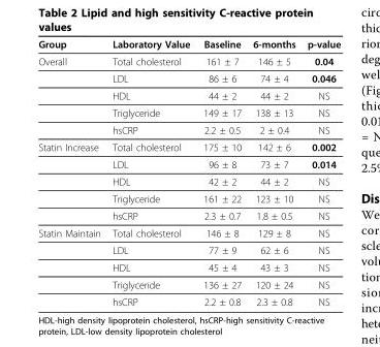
<table><thead><tr><td>Group</td><td>Laboratory Value</td><td>Baseline</td><td>6-months</td><td>p-value</td></tr></thead><tbody><tr><td rowspan="5">Overall</td><td>Total cholesterol</td><td>161 ± 7</td><td>146 ± 5</td><td>0.04</td></tr><tr><td>LDL</td><td>86 ± 6</td><td>74 ± 4</td><td>0.046</td></tr><tr><td>HDL</td><td>44 ± 2</td><td>44 ± 2</td><td>NS</td></tr><tr><td>Triglyceride</td><td>149 ± 17</td><td>138 ± 13</td><td>NS</td></tr><tr><td>hsCRP</td><td>2.2 ± 0.5</td><td>2 ± 0.4</td><td>NS</td></tr><tr><td rowspan="5">Statin Increase</td><td>Total cholesterol</td><td>175 ± 10</td><td>142 ± 6</td><td>0.002</td></tr><tr><td>LDL</td><td>96 ± 8</td><td>73 ± 7</td><td>0.014</td></tr><tr><td>HDL</td><td>42 ± 2</td><td>44 ± 2</td><td>NS</td></tr><tr><td>Triglyceride</td><td>161 ± 22</td><td>123 ± 10</td><td>NS</td></tr><tr><td>hsCRP</td><td>2.3 ± 0.7</td><td>1.8 ± 0.5</td><td>NS</td></tr><tr><td rowspan="5">Statin Maintain</td><td>Total cholesterol</td><td>146 ± 8</td><td>129 ± 8</td><td>NS</td></tr><tr><td>LDL</td><td>77 ± 9</td><td>62 ± 6</td><td>NS</td></tr><tr><td>HDL</td><td>45 ± 4</td><td>43 ± 3</td><td>NS</td></tr><tr><td>Triglyceride</td><td>136 ± 27</td><td>120 ± 24</td><td>NS</td></tr><tr><td>hsCRP</td><td>2.2 ± 0.8</td><td>2.3 ± 0.8</td><td>NS</td></tr></tbody></table>